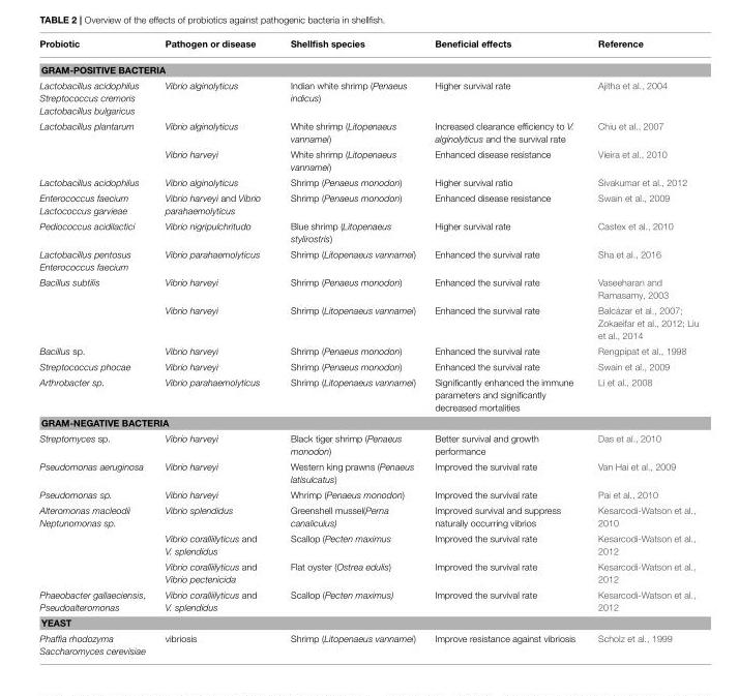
<table><thead><tr><td>Probiotic</td><td>Pathogen or disease</td><td>Shellfish species</td><td>Beneficial effects</td><td>Reference</td></tr></thead><tbody><tr><td colspan="5">GRAM-POSITIVE BACTERIA</td></tr><tr><td>Lactobacillus acidophilus Streptococcus cremoris Lactobacillus bulgaricus</td><td>Vibrio alginolyticus</td><td>Indian white shrimp (Penaeus indicus)</td><td>Higher survival rate</td><td>Ajitha et al., 2004</td></tr><tr><td rowspan="2">Lactobacillus plantarum</td><td>Vibrio alginolyticus</td><td>White shrimp (Litopenaeus vannamei)</td><td>Increased clearance efficiency to V. alginolyticus and the survival rate</td><td>Chiu et al., 2007</td></tr><tr><td>Vibrio harveyi</td><td>White shrimp (Litopenaeus vannamei)</td><td>Enhanced disease resistance</td><td>Vieira et al., 2010</td></tr><tr><td>Lactobacillus acidophilus</td><td>Vibrio alginolyticus</td><td>Shrimp (Penaeus monodon)</td><td>Higher survival ratio</td><td>Sivakumar et al., 2012</td></tr><tr><td>Enterococcus faecium Lactococcus garvieae</td><td>Vibrio harveyi and Vibrio parahaemolyticus</td><td>Shrimp (Penaeus monodon)</td><td>Enhanced disease resistance</td><td>Swain et al., 2009</td></tr><tr><td>Pediococcus acidilactici</td><td>Vibrio nigripulchritudo</td><td>Blue shrimp (Litopenaeus stylirostris)</td><td>Higher survival rate</td><td>Castex et al., 2010</td></tr><tr><td>Lactobacillus pentosus Enterococcus faecium</td><td>Vibrio parahaemolyticus</td><td>Shrimp (Litopenaeus vannamei)</td><td>Enhanced the survival rate</td><td>Sha et al., 2016</td></tr><tr><td rowspan="2">Bacillus subtilis</td><td>Vibrio harveyi</td><td>Shrimp (Penaeus monodon)</td><td>Enhanced the survival rate</td><td>Vaseeharan and Ramasamy, 2003</td></tr><tr><td>Vibrio harveyi</td><td>Shrimp (Litopenaeus vannamei)</td><td>Enhanced the survival rate</td><td>Balcázar et al., 2007; Zokaeifar et al., 2012; Liu et al., 2014</td></tr><tr><td>Bacillus sp.</td><td>Vibrio harveyi</td><td>Shrimp (Penaeus monodon)</td><td>Enhanced the survival rate</td><td>Rengpipat et al., 1998</td></tr><tr><td>Streptococcus phocae</td><td>Vibrio harveyi</td><td>Shrimp (Penaeus monodon)</td><td>Enhanced the survival rate</td><td>Swain et al., 2009</td></tr><tr><td>Arthrobacter sp.</td><td>Vibrio parahaemolyticus</td><td>Shrimp (Litopenaeus vannamei)</td><td>Significantly enhanced the immune parameters and significantly decreased mortalities</td><td>Li et al., 2008</td></tr><tr><td colspan="5">GRAM-NEGATIVE BACTERIA</td></tr><tr><td>Streptomyces sp.</td><td>Vibrio harveyi</td><td>Black tiger shrimp (Penaeus monodon)</td><td>Better survival and growth performance</td><td>Das et al., 2010</td></tr><tr><td>Pseudomonas aeruginosa</td><td>Vibrio harveyi</td><td>Western king prawns (Penaeus latisulcatus)</td><td>Improved the survival rate</td><td>Van Hai et al., 2009</td></tr><tr><td>Pseudomonas sp.</td><td>Vibrio harveyi</td><td>Whrimp (Penaeus monodon)</td><td>Improved the survival rate</td><td>Pai et al., 2010</td></tr><tr><td rowspan="3">Alteromonas macleodii Neptunomonas sp.</td><td>Vibrio splendidus</td><td>Greenshell mussel(Perna canaliculus)</td><td>Improved survival and suppress naturally occurring vibrios</td><td>Kesarcodi-Watson et al., 2010</td></tr><tr><td>Vibrio coralliilyticus and V. splendidus</td><td>Scallop (Pecten maximus</td><td>Improved the survival rate</td><td>Kesarcodi-Watson et al., 2012</td></tr><tr><td>Vibrio coralliilyticus and Vibrio pectenicida</td><td>Flat oyster (Ostrea edulis)</td><td>Improved the survival rate</td><td>Kesarcodi-Watson et al., 2012</td></tr><tr><td>Phaeobacter gallaeciensis, Pseudoalteromonas</td><td>Vibrio coralliilyticus and V. splendidus</td><td>Scallop (Pecten maximus)</td><td>Improved the survival rate</td><td>Kesarcodi-Watson et al., 2012</td></tr><tr><td colspan="5">YEAST</td></tr><tr><td>Phaffia rhodozyma Saccharomyces cerevisiae</td><td>vibriosis</td><td>Shrimp (Litopenaeus vannamei)</td><td>Improve resistance against vibriosis</td><td>Scholz et al., 1999</td></tr></tbody></table>